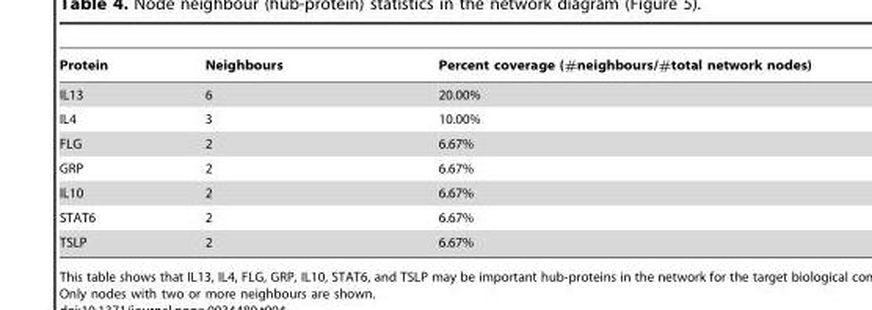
<table><thead><tr><td>Protein</td><td>Neighbours</td><td>Percent coverage (#neighbours/#total network nodes)</td></tr></thead><tbody><tr><td>IL13</td><td>6</td><td>20.00%</td></tr><tr><td>IL4</td><td>3</td><td>10.00%</td></tr><tr><td>FLG</td><td>2</td><td>6.67%</td></tr><tr><td>GRP</td><td>2</td><td>6.67%</td></tr><tr><td>IL10</td><td>2</td><td>6.67%</td></tr><tr><td>STAT6</td><td>2</td><td>6.67%</td></tr><tr><td>TSLP</td><td>2</td><td>6.67%</td></tr></tbody></table>